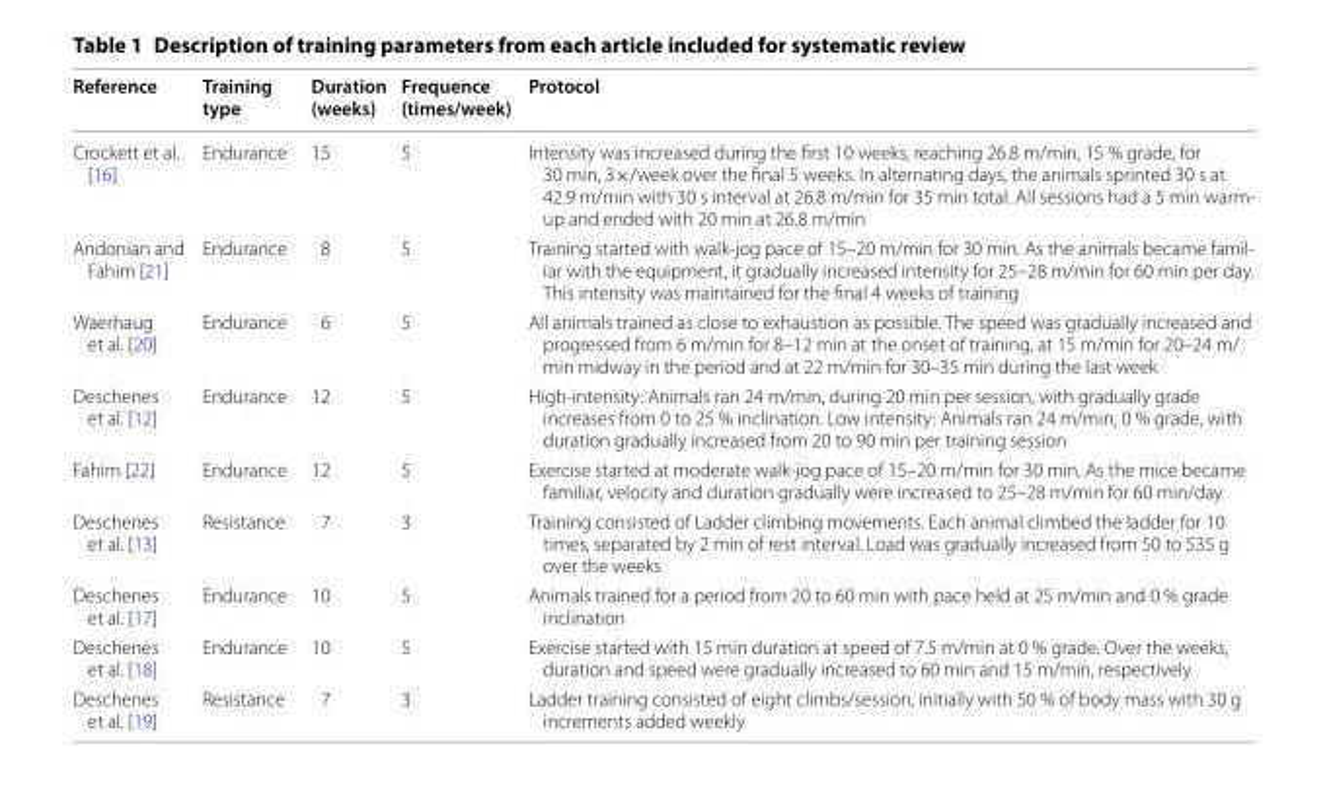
<table><thead><tr><td>Reference</td><td>Training type</td><td>Duration (weeks)</td><td>Frequence (times/week)</td><td>Protocol</td></tr></thead><tbody><tr><td>Crockett et al. [16]</td><td>Endurance</td><td>15</td><td>5</td><td>Intensity was increased during the first 10 weeks, reaching 26.8 m/min, 15 % grade, for 30 min, 3×/week over the final 5 weeks. In alternating days, the animals sprinted 30 s at 42.9 m/min with 30 s interval at 26.8 m/min for 35 min total. All sessions had a 5 min warm- up and ended with 20 min at 26.8 m/min</td></tr><tr><td>Andonian and Fahim [21]</td><td>Endurance</td><td>8</td><td>5</td><td>Training started with walk-jog pace of 15–20 m/min for 30 min. As the animals became famil- iar with the equipment, it gradually increased intensity for 25–28 m/min for 60 min per day. This intensity was maintained for the final 4 weeks of training</td></tr><tr><td>Waerhaug et al. [20]</td><td>Endurance</td><td>6</td><td>5</td><td>All animals trained as close to exhaustion as possible. The speed was gradually increased and progressed from 6 m/min for 8–12 min at the onset of training, at 15 m/min for 20–24 m/ min midway in the period and at 22 m/min for 30–35 min during the last week</td></tr><tr><td>Deschenes et al. [12]</td><td>Endurance</td><td>12</td><td>5</td><td>High-intensity: Animals ran 24 m/min, during 20 min per session, with gradually grade increases from 0 to 25 % inclination. Low intensity: Animals ran 24 m/min, 0 % grade, with duration gradually increased from 20 to 90 min per training session</td></tr><tr><td>Fahim [22]</td><td>Endurance</td><td>12</td><td>5</td><td>Exercise started at moderate walk-jog pace of 15–20 m/min for 30 min. As the mice became familiar, velocity and duration gradually were increased to 25–28 m/min for 60 min/day</td></tr><tr><td>Deschenes et al. [13]</td><td>Resistance</td><td>7</td><td>3</td><td>Training consisted of Ladder climbing movements. Each animal climbed the ladder for 10 times, separated by 2 min of rest interval. Load was gradually increased from 50 to 535 g over the weeks</td></tr><tr><td>Deschenes et al. [17]</td><td>Endurance</td><td>10</td><td>5</td><td>Animals trained for a period from 20 to 60 min with pace held at 25 m/min and 0 % grade inclination</td></tr><tr><td>Deschenes et al. [18]</td><td>Endurance</td><td>10</td><td>5</td><td>Exercise started with 15 min duration at speed of 7.5 m/min at 0 % grade. Over the weeks, duration and speed were gradually increased to 60 min and 15 m/min, respectively</td></tr><tr><td>Deschenes et al. [19]</td><td>Resistance</td><td>7</td><td>3</td><td>Ladder training consisted of eight climbs/session, initially with 50 % of body mass with 30 g increments added weekly</td></tr></tbody></table>